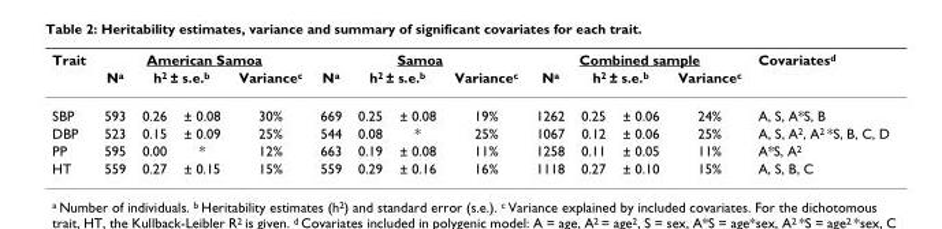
<table><thead><tr><td rowspan="3">Trait SBP</td><td colspan="4">American Samoa</td><td colspan="4">Samoa</td><td colspan="4">Combined sample</td><td rowspan="3">Covariates<sup>d</sup> A, S, A*S, B</td></tr><tr><td rowspan="2">N<sup>a</sup> 593</td><td colspan="2">h<sup>2</sup> ± s.e.<sup>b</sup></td><td rowspan="2">Variance<sup>c</sup> 30%</td><td rowspan="2">N<sup>a</sup> 669</td><td colspan="2">h<sup>2</sup> ± s.e.<sup>b</sup></td><td rowspan="2">Variance<sup>c</sup> 19%</td><td rowspan="2">N<sup>a</sup> 1262</td><td colspan="2">h<sup>2</sup> ± s.e.<sup>b</sup></td><td rowspan="2">Variance<sup>c</sup> 24%</td></tr><tr><td>0.26</td><td>± 0.08</td><td>0.25</td><td>± 0.08</td><td>0.25</td><td>± 0.06</td></tr></thead><tbody><tr><td>DBP</td><td>523</td><td>0.15</td><td>± 0.09</td><td>25%</td><td>544</td><td>0.08</td><td>*</td><td>25%</td><td>1067</td><td>0.12</td><td>± 0.06</td><td>25%</td><td>A, S, A<sup>2</sup>, A<sup>2</sup> *S, B, C, D</td></tr><tr><td>PP</td><td>595</td><td>0.00</td><td>*</td><td>12%</td><td>663</td><td>0.19</td><td>± 0.08</td><td>11%</td><td>1258</td><td>0.11</td><td>± 0.05</td><td>11%</td><td>A*S, A<sup>2</sup></td></tr><tr><td>HT</td><td>559</td><td>0.27</td><td>± 0.15</td><td>15%</td><td>559</td><td>0.29</td><td>± 0.16</td><td>16%</td><td>1118</td><td>0.27</td><td>± 0.10</td><td>15%</td><td>A, S, B, C</td></tr></tbody></table>